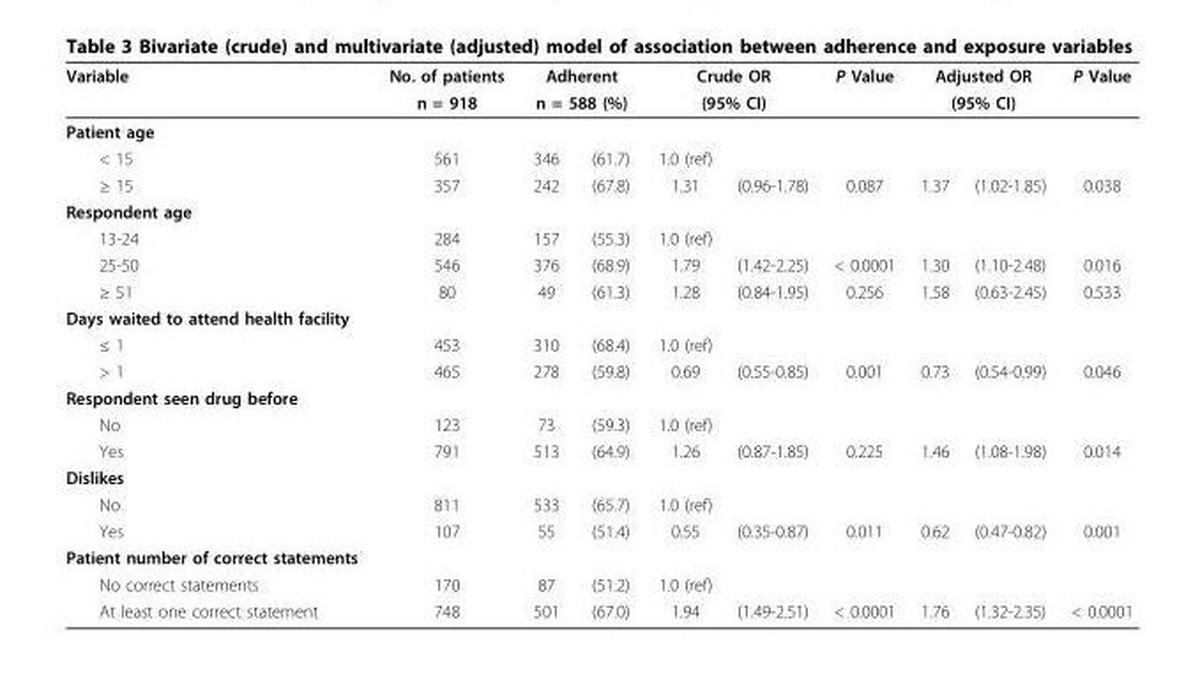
<table><thead><tr><td rowspan="3">Variable Patient age</td><td rowspan="3">No. of patients n = 918</td><td rowspan="2" colspan="2">Adherent n = 588 (%)</td><td rowspan="2" colspan="2">Crude OR (95% CI)</td><td rowspan="3">P Value</td><td rowspan="2" colspan="2">Adjusted OR (95% CI)</td><td rowspan="3">P Value</td></tr><tr></tr><tr><td></td><td></td><td></td><td></td><td></td><td></td></tr></thead><tbody><tr><td>&lt; 15</td><td>561</td><td>346</td><td>(61.7)</td><td>1.0 (ref)</td><td></td><td></td><td></td><td></td><td></td></tr><tr><td>≥ 15</td><td>357</td><td>242</td><td>(67.8)</td><td>1.31</td><td>(0.96-1.78)</td><td>0.087</td><td>1.37</td><td>(1.02-1.85)</td><td>0.038</td></tr><tr><td colspan="10">Respondent age</td></tr><tr><td>13-24</td><td>284</td><td>157</td><td>(55.3)</td><td>1.0 (ref)</td><td></td><td></td><td></td><td></td><td></td></tr><tr><td>25-50</td><td>546</td><td>376</td><td>(68.9)</td><td>1.79</td><td>(1.42-2.25)</td><td>&lt; 0.0001</td><td>1.30</td><td>(1.10-2.48)</td><td>0.016</td></tr><tr><td>≥ 51</td><td>80</td><td>49</td><td>(61.3)</td><td>1.28</td><td>(0.84-1.95)</td><td>0.256</td><td>1.58</td><td>(0.63-2.45)</td><td>0.533</td></tr><tr><td colspan="10">Days waited to attend health facility</td></tr><tr><td>≤ 1</td><td>453</td><td>310</td><td>(68.4)</td><td>1.0 (ref)</td><td></td><td></td><td></td><td></td><td></td></tr><tr><td>&gt; 1</td><td>465</td><td>278</td><td>(59.8)</td><td>0.69</td><td>(0.55-0.85)</td><td>0.001</td><td>0.73</td><td>(0.54-0.99)</td><td>0.046</td></tr><tr><td colspan="10">Respondent seen drug before</td></tr><tr><td>No</td><td>123</td><td>73</td><td>(59.3)</td><td>1.0 (ref)</td><td></td><td></td><td></td><td></td><td></td></tr><tr><td>Yes</td><td>791</td><td>513</td><td>(64.9)</td><td>1.26</td><td>(0.87-1.85)</td><td>0.225</td><td>1.46</td><td>(1.08-1.98)</td><td>0.014</td></tr><tr><td colspan="10">Dislikes</td></tr><tr><td>No</td><td>811</td><td>533</td><td>(65.7)</td><td>1.0 (ref)</td><td></td><td></td><td></td><td></td><td></td></tr><tr><td>Yes</td><td>107</td><td>55</td><td>(51.4)</td><td>0.55</td><td>(0.35-0.87)</td><td>0.011</td><td>0.62</td><td>(0.47-0.82)</td><td>0.001</td></tr><tr><td colspan="10">Patient number of correct statements</td></tr><tr><td>No correct statements</td><td>170</td><td>87</td><td>(51.2)</td><td>1.0 (ref)</td><td></td><td></td><td></td><td></td><td></td></tr><tr><td>At least one correct statement</td><td>748</td><td>501</td><td>(67.0)</td><td>1.94</td><td>(1.49-2.51)</td><td>&lt; 0.0001</td><td>1.76</td><td>(1.32-2.35)</td><td>&lt; 0.0001</td></tr></tbody></table>